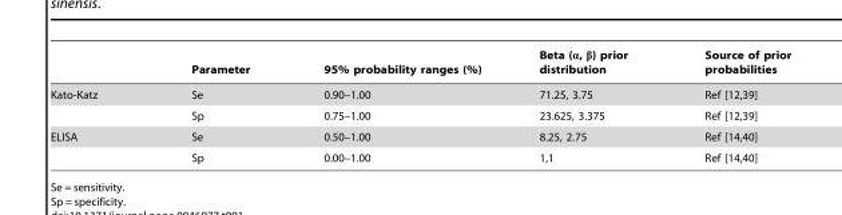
<table><thead><tr><td></td><td>Parameter</td><td>95% probability ranges (%)</td><td>Beta (α, β) prior distribution</td><td>Source of prior probabilities</td></tr></thead><tbody><tr><td rowspan="2">Kato-Katz</td><td>Se</td><td>0.90–1.00</td><td>71.25, 3.75</td><td>Ref [12,39]</td></tr><tr><td>Sp</td><td>0.75–1.00</td><td>23.625, 3.375</td><td>Ref [12,39]</td></tr><tr><td rowspan="2">ELISA</td><td>Se</td><td>0.50–1.00</td><td>8.25, 2.75</td><td>Ref [14,40]</td></tr><tr><td>Sp</td><td>0.00–1.00</td><td>1,1</td><td>Ref [14,40]</td></tr></tbody></table>